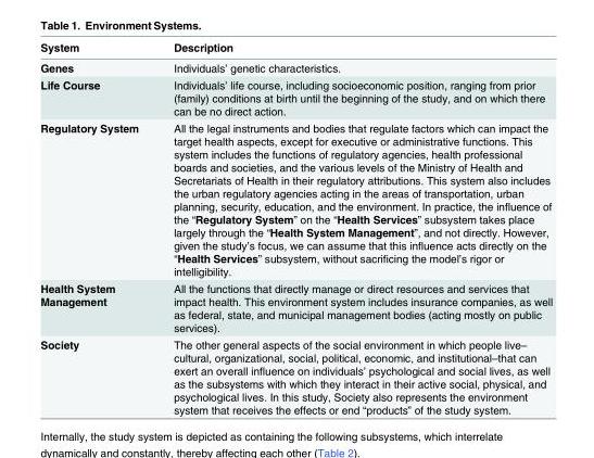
<table><thead><tr><td>System</td><td>Description</td></tr></thead><tbody><tr><td>Genes</td><td>Individuals’ genetic characteristics.</td></tr><tr><td>Life Course</td><td>Individuals’ life course, including socioeconomic position, ranging from prior (family) conditions at birth until the beginning of the study, and on which there can be no direct action.</td></tr><tr><td>Regulatory System</td><td>All the legal instruments and bodies that regulate factors which can impact the target health aspects, except for executive or administrative functions. This system includes the functions of regulatory agencies, health professional boards and societies, and the various levels of the Ministry of Health and Secretariats of Health in their regulatory attributions. This system also includes the urban regulatory agencies acting in the areas of transportation, urban planning, security, education, and the environment. In practice, the influence of the “Regulatory System” on the “Health Services” subsystem takes place largely through the “Health System Management”, and not directly. However, given the study’s focus, we can assume that this influence acts directly on the “Health Services” subsystem, without sacrificing the model’s rigor or intelligibility.</td></tr><tr><td>Health System Management</td><td>All the functions that directly manage or direct resources and services that impact health. This environment system includes insurance companies, as well as federal, state, and municipal management bodies (acting mostly on public services).</td></tr><tr><td>Society</td><td>The other general aspects of the social environment in which people live– cultural, organizational, social, political, economic, and institutional–that can exert an overall influence on individuals’ psychological and social lives, as well as the subsystems with which they interact in their active social, physical, and psychological lives. In this study, Society also represents the environment system that receives the effects or end “products” of the study system.</td></tr></tbody></table>